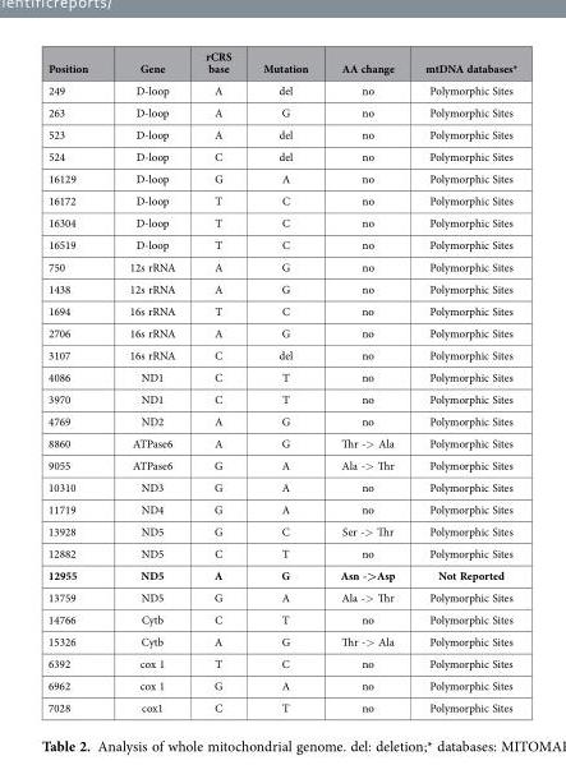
<table><thead><tr><td>Position</td><td>Gene</td><td>rCRS base</td><td>Mutation</td><td>AA change</td><td>mtDNA databases*</td></tr></thead><tbody><tr><td>249</td><td>D-loop</td><td>A</td><td>del</td><td>no</td><td>Polymorphic Sites</td></tr><tr><td>263</td><td>D-loop</td><td>A</td><td>G</td><td>no</td><td>Polymorphic Sites</td></tr><tr><td>523</td><td>D-loop</td><td>A</td><td>del</td><td>no</td><td>Polymorphic Sites</td></tr><tr><td>524</td><td>D-loop</td><td>C</td><td>del</td><td>no</td><td>Polymorphic Sites</td></tr><tr><td>16129</td><td>D-loop</td><td>G</td><td>A</td><td>no</td><td>Polymorphic Sites</td></tr><tr><td>16172</td><td>D-loop</td><td>T</td><td>C</td><td>no</td><td>Polymorphic Sites</td></tr><tr><td>16304</td><td>D-loop</td><td>T</td><td>C</td><td>no</td><td>Polymorphic Sites</td></tr><tr><td>16519</td><td>D-loop</td><td>T</td><td>C</td><td>no</td><td>Polymorphic Sites</td></tr><tr><td>750</td><td>12s rRNA</td><td>A</td><td>G</td><td>no</td><td>Polymorphic Sites</td></tr><tr><td>1438</td><td>12s rRNA</td><td>A</td><td>G</td><td>no</td><td>Polymorphic Sites</td></tr><tr><td>1694</td><td>16s rRNA</td><td>T</td><td>C</td><td>no</td><td>Polymorphic Sites</td></tr><tr><td>2706</td><td>16s rRNA</td><td>A</td><td>G</td><td>no</td><td>Polymorphic Sites</td></tr><tr><td>3107</td><td>16s rRNA</td><td>C</td><td>del</td><td>no</td><td>Polymorphic Sites</td></tr><tr><td>4086</td><td>ND1</td><td>C</td><td>T</td><td>no</td><td>Polymorphic Sites</td></tr><tr><td>3970</td><td>ND1</td><td>C</td><td>T</td><td>no</td><td>Polymorphic Sites</td></tr><tr><td>4769</td><td>ND2</td><td>A</td><td>G</td><td>no</td><td>Polymorphic Sites</td></tr><tr><td>8860</td><td>ATPase6</td><td>A</td><td>G</td><td>Thr -&gt; Ala</td><td>Polymorphic Sites</td></tr><tr><td>9055</td><td>ATPase6</td><td>G</td><td>A</td><td>Ala -&gt; Thr</td><td>Polymorphic Sites</td></tr><tr><td>10310</td><td>ND3</td><td>G</td><td>A</td><td>no</td><td>Polymorphic Sites</td></tr><tr><td>11719</td><td>ND4</td><td>G</td><td>A</td><td>no</td><td>Polymorphic Sites</td></tr><tr><td>13928</td><td>ND5</td><td>G</td><td>C</td><td>Ser -&gt; Thr</td><td>Polymorphic Sites</td></tr><tr><td>12882</td><td>ND5</td><td>C</td><td>T</td><td>no</td><td>Polymorphic Sites</td></tr><tr><td>12955</td><td>ND5</td><td>A</td><td>G</td><td>Asn -&gt;Asp</td><td>Not Reported</td></tr><tr><td>13759</td><td>ND5</td><td>G</td><td>A</td><td>Ala -&gt; Thr</td><td>Polymorphic Sites</td></tr><tr><td>14766</td><td>Cytb</td><td>C</td><td>T</td><td>no</td><td>Polymorphic Sites</td></tr><tr><td>15326</td><td>Cytb</td><td>A</td><td>G</td><td>Thr -&gt; Ala</td><td>Polymorphic Sites</td></tr><tr><td>6392</td><td>cox 1</td><td>T</td><td>C</td><td>no</td><td>Polymorphic Sites</td></tr><tr><td>6962</td><td>cox 1</td><td>G</td><td>A</td><td>no</td><td>Polymorphic Sites</td></tr><tr><td>7028</td><td>cox1</td><td>C</td><td>T</td><td>no</td><td>Polymorphic Sites</td></tr></tbody></table>